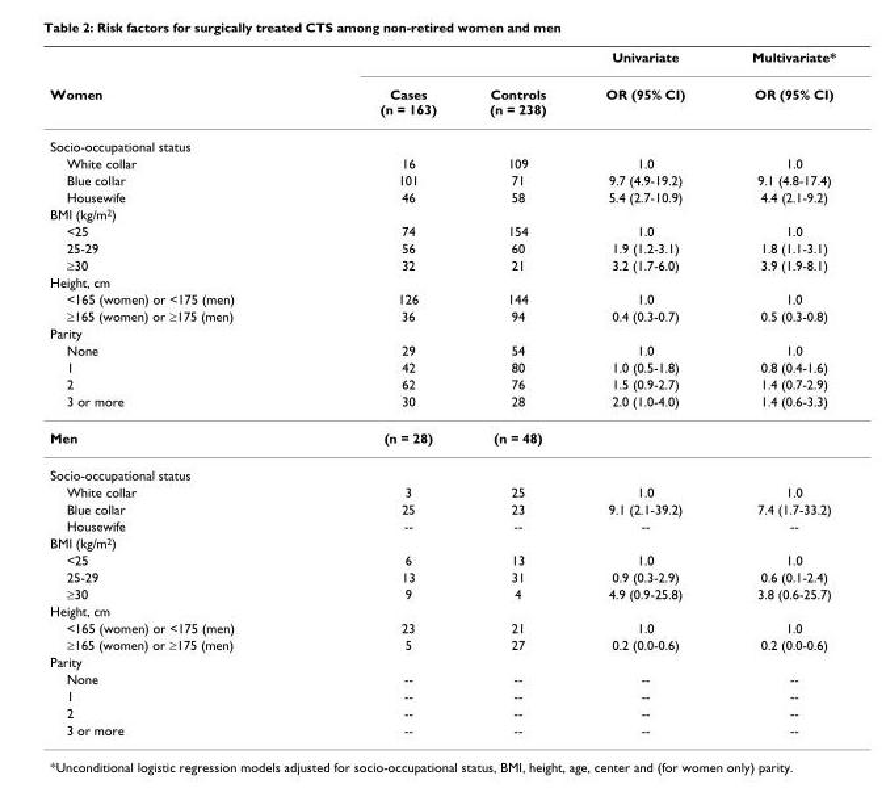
<table><thead><tr><td rowspan="2">Women</td><td rowspan="2">Cases (n = 163)</td><td rowspan="2">Controls (n = 238)</td><td rowspan="2">Univariate OR (95% CI)</td><td rowspan="2">Multivariate* OR (95% CI)</td></tr><tr></tr></thead><tbody><tr><td colspan="5">Socio-occupational status</td></tr><tr><td>White collar</td><td>16</td><td>109</td><td>1.0</td><td>1.0</td></tr><tr><td>Blue collar</td><td>101</td><td>71</td><td>9.7 (4.9-19.2)</td><td>9.1 (4.8-17.4)</td></tr><tr><td>Housewife</td><td>46</td><td>58</td><td>5.4 (2.7-10.9)</td><td>4.4 (2.1-9.2)</td></tr><tr><td colspan="5">BMI (kg/m<sup>2</sup>)</td></tr><tr><td>&lt;25</td><td>74</td><td>154</td><td>1.0</td><td>1.0</td></tr><tr><td>25-29</td><td>56</td><td>60</td><td>1.9 (1.2-3.1)</td><td>1.8 (1.1-3.1)</td></tr><tr><td>≥30</td><td>32</td><td>21</td><td>3.2 (1.7-6.0)</td><td>3.9 (1.9-8.1)</td></tr><tr><td colspan="5">Height, cm</td></tr><tr><td>&lt;165 (women) or &lt;175 (men)</td><td>126</td><td>144</td><td>1.0</td><td>1.0</td></tr><tr><td>≥165 (women) or ≥175 (men)</td><td>36</td><td>94</td><td>0.4 (0.3-0.7)</td><td>0.5 (0.3-0.8)</td></tr><tr><td colspan="5">Parity</td></tr><tr><td>None</td><td>29</td><td>54</td><td>1.0</td><td>1.0</td></tr><tr><td>1</td><td>42</td><td>80</td><td>1.0 (0.5-1.8)</td><td>0.8 (0.4-1.6)</td></tr><tr><td>2</td><td>62</td><td>76</td><td>1.5 (0.9-2.7)</td><td>1.4 (0.7-2.9)</td></tr><tr><td>3 or more</td><td>30</td><td>28</td><td>2.0 (1.0-4.0)</td><td>1.4 (0.6-3.3)</td></tr><tr><td>Men</td><td>(n = 28)</td><td>(n = 48)</td><td></td><td></td></tr><tr><td colspan="5">Socio-occupational status</td></tr><tr><td>White collar</td><td>3</td><td>25</td><td>1.0</td><td>1.0</td></tr><tr><td>Blue collar</td><td>25</td><td>23</td><td>9.1 (2.1-39.2)</td><td>7.4 (1.7-33.2)</td></tr><tr><td>Housewife</td><td>--</td><td>--</td><td>--</td><td>--</td></tr><tr><td colspan="5">BMI (kg/m<sup>2</sup>)</td></tr><tr><td>&lt;25</td><td>6</td><td>13</td><td>1.0</td><td>1.0</td></tr><tr><td>25-29</td><td>13</td><td>31</td><td>0.9 (0.3-2.9)</td><td>0.6 (0.1-2.4)</td></tr><tr><td>≥30</td><td>9</td><td>4</td><td>4.9 (0.9-25.8)</td><td>3.8 (0.6-25.7)</td></tr><tr><td colspan="5">Height, cm</td></tr><tr><td>&lt;165 (women) or &lt;175 (men)</td><td>23</td><td>21</td><td>1.0</td><td>1.0</td></tr><tr><td>≥165 (women) or ≥175 (men)</td><td>5</td><td>27</td><td>0.2 (0.0-0.6)</td><td>0.2 (0.0-0.6)</td></tr><tr><td colspan="5">Parity</td></tr><tr><td>None</td><td>--</td><td>--</td><td>--</td><td>--</td></tr><tr><td>1</td><td>--</td><td>--</td><td>--</td><td>--</td></tr><tr><td>2</td><td>--</td><td>--</td><td>--</td><td>--</td></tr><tr><td>3 or more</td><td>--</td><td>--</td><td>--</td><td>--</td></tr></tbody></table>